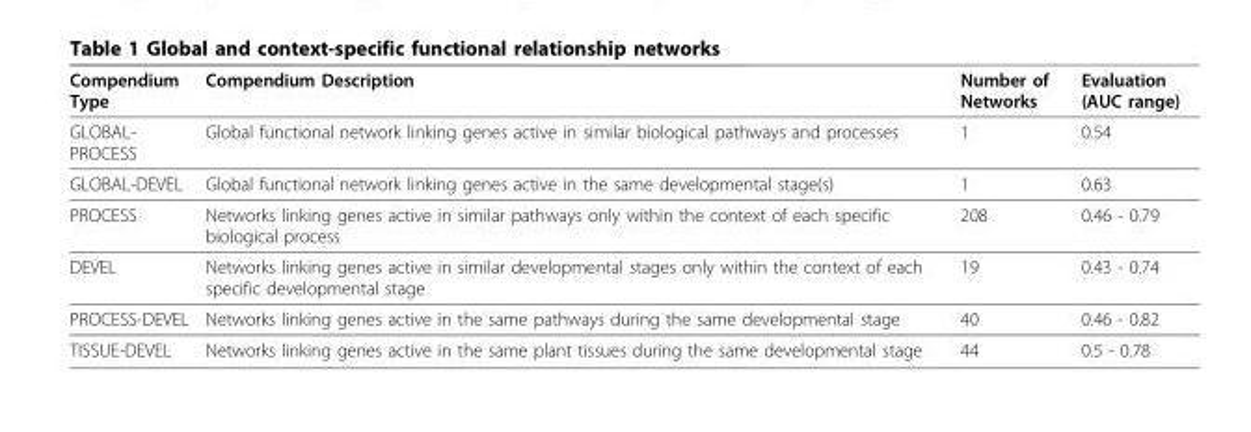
<table><thead><tr><td>Compendium Type</td><td>Compendium Description</td><td>Number of Networks</td><td>Evaluation (AUC range)</td></tr></thead><tbody><tr><td>GLOBAL- PROCESS</td><td>Global functional network linking genes active in similar biological pathways and processes</td><td>1</td><td>0.54</td></tr><tr><td>GLOBAL-DEVEL</td><td>Global functional network linking genes active in the same developmental stage(s)</td><td>1</td><td>0.63</td></tr><tr><td>PROCESS</td><td>Networks linking genes active in similar pathways only within the context of each specific biological process</td><td>208</td><td>0.46 - 0.79</td></tr><tr><td>DEVEL</td><td>Networks linking genes active in similar developmental stages only within the context of each specific developmental stage</td><td>19</td><td>0.43 - 0.74</td></tr><tr><td>PROCESS-DEVEL</td><td>Networks linking genes active in the same pathways during the same developmental stage</td><td>40</td><td>0.46 - 0.82</td></tr><tr><td>TISSUE-DEVEL</td><td>Networks linking genes active in the same plant tissues during the same developmental stage</td><td>44</td><td>0.5 - 0.78</td></tr></tbody></table>